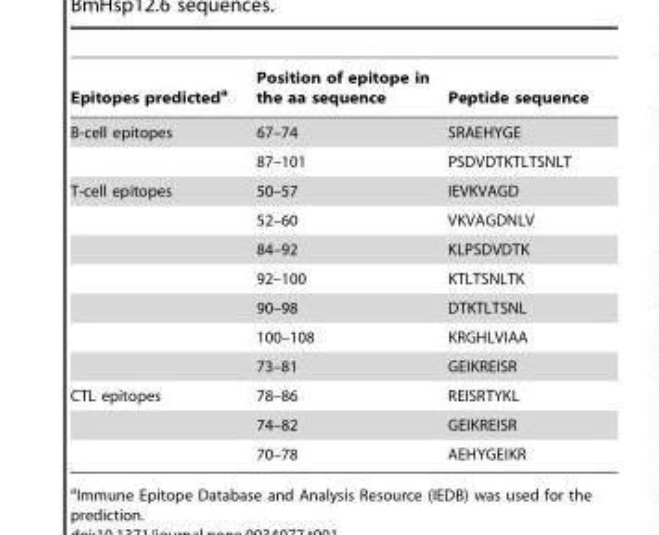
<table><thead><tr><td>Epitopes predicted<sup>a</sup></td><td>Position of epitope in the aa sequence</td><td>Peptide sequence</td></tr></thead><tbody><tr><td rowspan="2">B-cell epitopes</td><td>67–74</td><td>SRAEHYGE</td></tr><tr><td>87–101</td><td>PSDVDTKTLTSNLT</td></tr><tr><td rowspan="7">T-cell epitopes</td><td>50–57</td><td>IEVKVAGD</td></tr><tr><td>52–60</td><td>VKVAGDNLV</td></tr><tr><td>84–92</td><td>KLPSDVDTK</td></tr><tr><td>92–100</td><td>KTLTSNLTK</td></tr><tr><td>90–98</td><td>DTKTLTSNL</td></tr><tr><td>100–108</td><td>KRGHLVIAA</td></tr><tr><td>73–81</td><td>GEIKREISR</td></tr><tr><td rowspan="3">CTL epitopes</td><td>78–86</td><td>REISRTYKL</td></tr><tr><td>74–82</td><td>GEIKREISR</td></tr><tr><td>70–78</td><td>AEHYGEIKR</td></tr></tbody></table>